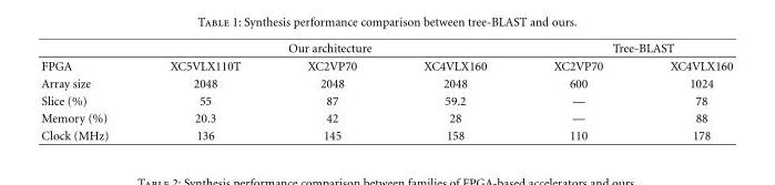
<table><thead><tr><td rowspan="2">FPGA</td><td colspan="3">Our architecture</td><td colspan="2">Tree-BLAST</td></tr><tr><td>XC5VLX110T</td><td>XC2VP70</td><td>XC4VLX160</td><td>XC2VP70</td><td>XC4VLX160</td></tr></thead><tbody><tr><td>Array size</td><td>2048</td><td>2048</td><td>2048</td><td>600</td><td>1024</td></tr><tr><td>Slice (%)</td><td>55</td><td>87</td><td>59.2</td><td>—</td><td>78</td></tr><tr><td>Memory (%)</td><td>20.3</td><td>42</td><td>28</td><td>—</td><td>88</td></tr><tr><td>Clock (MHz)</td><td>136</td><td>145</td><td>158</td><td>110</td><td>178</td></tr></tbody></table>